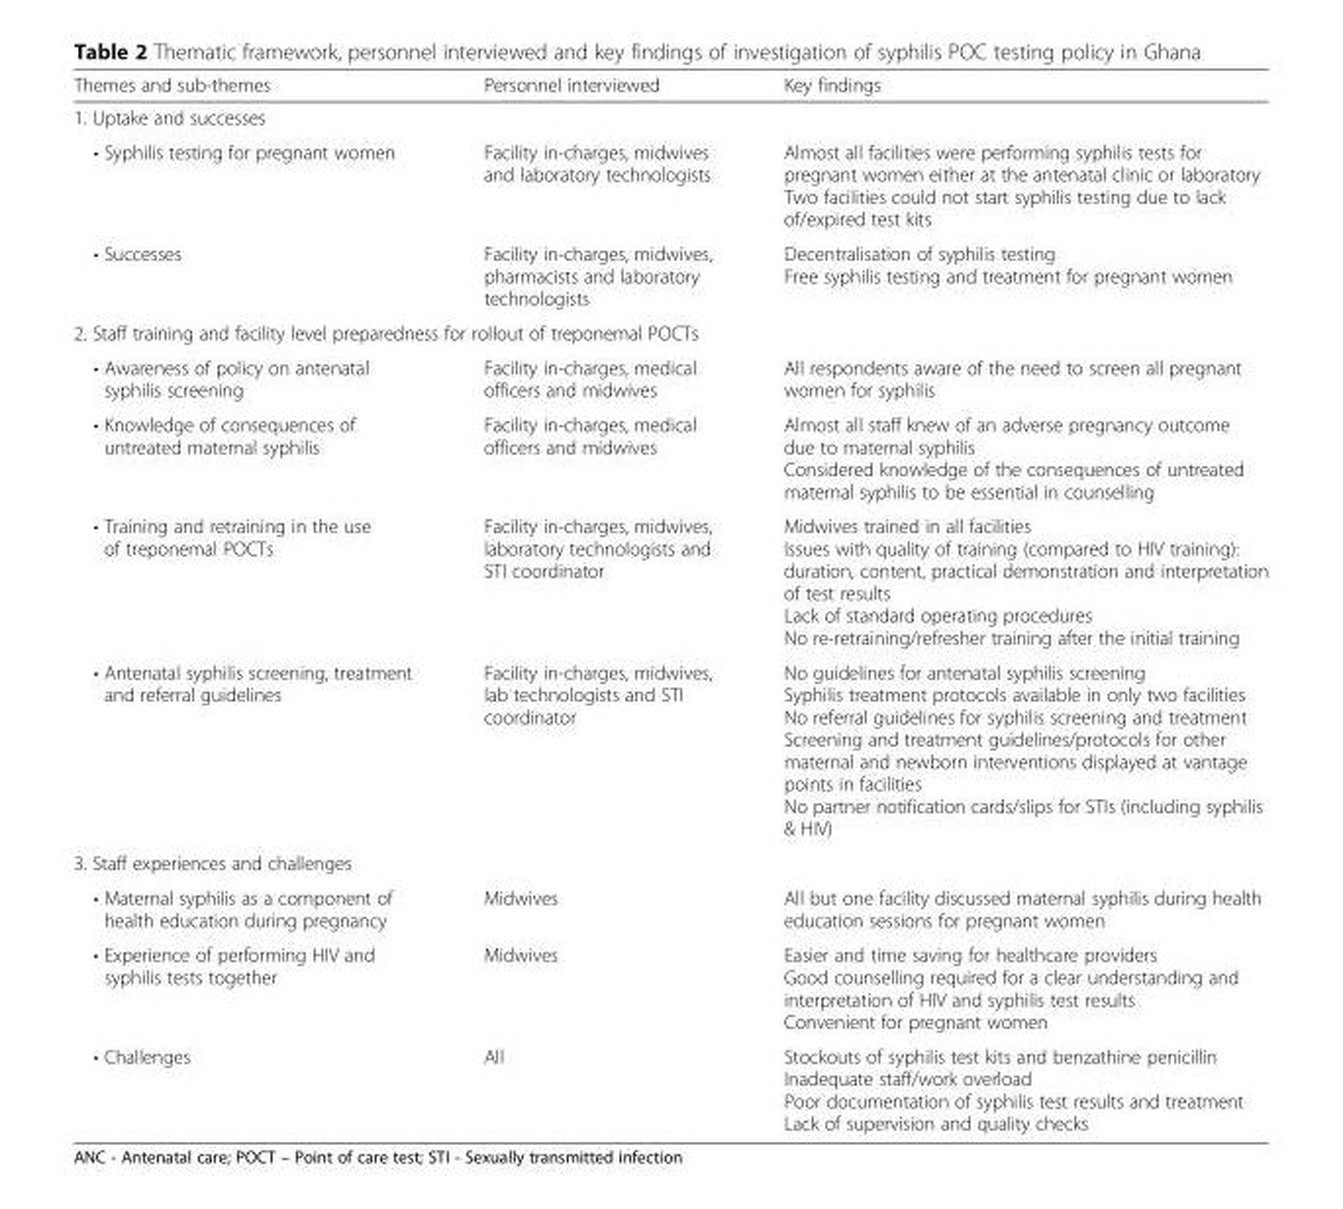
<table><thead><tr><td>Themes and sub-themes</td><td>Personnel interviewed</td><td>Key findings</td></tr></thead><tbody><tr><td colspan="3">1. Uptake and successes</td></tr><tr><td>• Syphilis testing for pregnant women</td><td>Facility in-charges, midwives and laboratory technologists</td><td>Almost all facilities were performing syphilis tests for pregnant women either at the antenatal clinic or laboratory Two facilities could not start syphilis testing due to lack of/expired test kits</td></tr><tr><td>• Successes</td><td>Facility in-charges, midwives, pharmacists and laboratory technologists</td><td>Decentralisation of syphilis testing Free syphilis testing and treatment for pregnant women</td></tr><tr><td colspan="3">2. Staff training and facility level preparedness for rollout of treponemal POCTs</td></tr><tr><td>• Awareness of policy on antenatal syphilis screening</td><td>Facility in-charges, medical officers and midwives</td><td>All respondents aware of the need to screen all pregnant women for syphilis</td></tr><tr><td>• Knowledge of consequences of untreated maternal syphilis</td><td>Facility in-charges, medical officers and midwives</td><td>Almost all staff knew of an adverse pregnancy outcome due to maternal syphilis Considered knowledge of the consequences of untreated maternal syphilis to be essential in counselling</td></tr><tr><td>• Training and retraining in the use of treponemal POCTs</td><td>Facility in-charges, midwives, laboratory technologists and STI coordinator</td><td>Midwives trained in all facilities Issues with quality of training (compared to HIV training): duration, content, practical demonstration and interpretation of test results Lack of standard operating procedures No re-retraining/refresher training after the initial training</td></tr><tr><td>• Antenatal syphilis screening, treatment and referral guidelines</td><td>Facility in-charges, midwives, lab technologists and STI coordinator</td><td>No guidelines for antenatal syphilis screening Syphilis treatment protocols available in only two facilities No referral guidelines for syphilis screening and treatment Screening and treatment guidelines/protocols for other maternal and newborn interventions displayed at vantage points in facilities No partner notification cards/slips for STIs (including syphilis &amp; HIV)</td></tr><tr><td colspan="3">3. Staff experiences and challenges</td></tr><tr><td>• Maternal syphilis as a component of health education during pregnancy</td><td>Midwives</td><td>All but one facility discussed maternal syphilis during health education sessions for pregnant women</td></tr><tr><td>• Experience of performing HIV and syphilis tests together</td><td>Midwives</td><td>Easier and time saving for healthcare providers Good counselling required for a clear understanding and interpretation of HIV and syphilis test results Convenient for pregnant women</td></tr><tr><td>• Challenges</td><td>All</td><td>Stockouts of syphilis test kits and benzathine penicillin Inadequate staff/work overload Poor documentation of syphilis test results and treatment Lack of supervision and quality checks</td></tr></tbody></table>